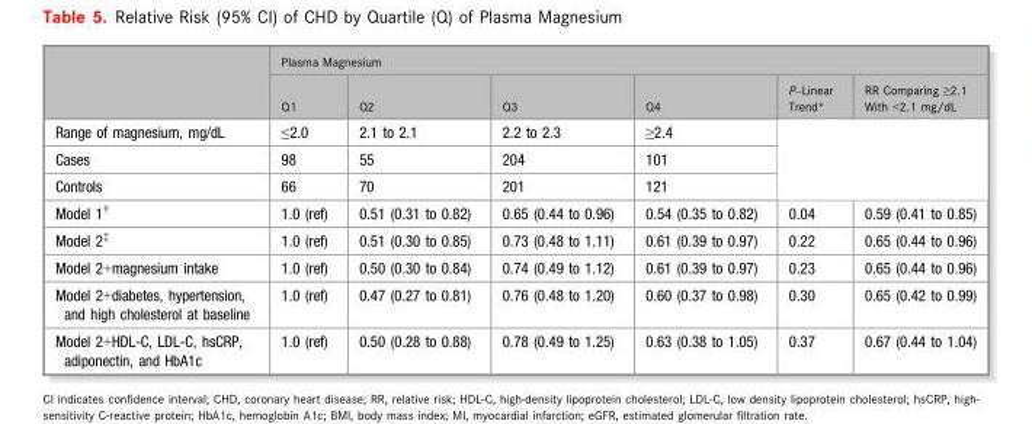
<table><thead><tr><td rowspan="2"></td><td colspan="6">Plasma Magnesium</td></tr><tr><td>Q1</td><td>Q2</td><td>Q3</td><td>Q4</td><td>P–Linear Trend*</td><td>RR Comparing ≥2.1 With &lt;2.1 mg/dL</td></tr></thead><tbody><tr><td>Range of magnesium, mg/dL</td><td>≤2.0</td><td>2.1 to 2.1</td><td>2.2 to 2.3</td><td>≥2.4</td><td></td><td></td></tr><tr><td>Cases</td><td>98</td><td>55</td><td>204</td><td>101</td><td></td><td></td></tr><tr><td>Controls</td><td>66</td><td>70</td><td>201</td><td>121</td><td></td><td></td></tr><tr><td>Model 1†</td><td>1.0 (ref)</td><td>0.51 (0.31 to 0.82)</td><td>0.65 (0.44 to 0.96)</td><td>0.54 (0.35 to 0.82)</td><td>0.04</td><td>0.59 (0.41 to 0.85)</td></tr><tr><td>Model 2‡</td><td>1.0 (ref)</td><td>0.51 (0.30 to 0.85)</td><td>0.73 (0.48 to 1.11)</td><td>0.61 (0.39 to 0.97)</td><td>0.22</td><td>0.65 (0.44 to 0.96)</td></tr><tr><td>Model 2+magnesium intake</td><td>1.0 (ref)</td><td>0.50 (0.30 to 0.84)</td><td>0.74 (0.49 to 1.12)</td><td>0.61 (0.39 to 0.97)</td><td>0.23</td><td>0.65 (0.44 to 0.96)</td></tr><tr><td>Model 2+diabetes, hypertension, and high cholesterol at baseline</td><td>1.0 (ref)</td><td>0.47 (0.27 to 0.81)</td><td>0.76 (0.48 to 1.20)</td><td>0.60 (0.37 to 0.98)</td><td>0.30</td><td>0.65 (0.42 to 0.99)</td></tr><tr><td>Model 2+HDL-C, LDL-C, hsCRP, adiponectin, and HbA1c</td><td>1.0 (ref)</td><td>0.50 (0.28 to 0.88)</td><td>0.78 (0.49 to 1.25)</td><td>0.63 (0.38 to 1.05)</td><td>0.37</td><td>0.67 (0.44 to 1.04)</td></tr></tbody></table>